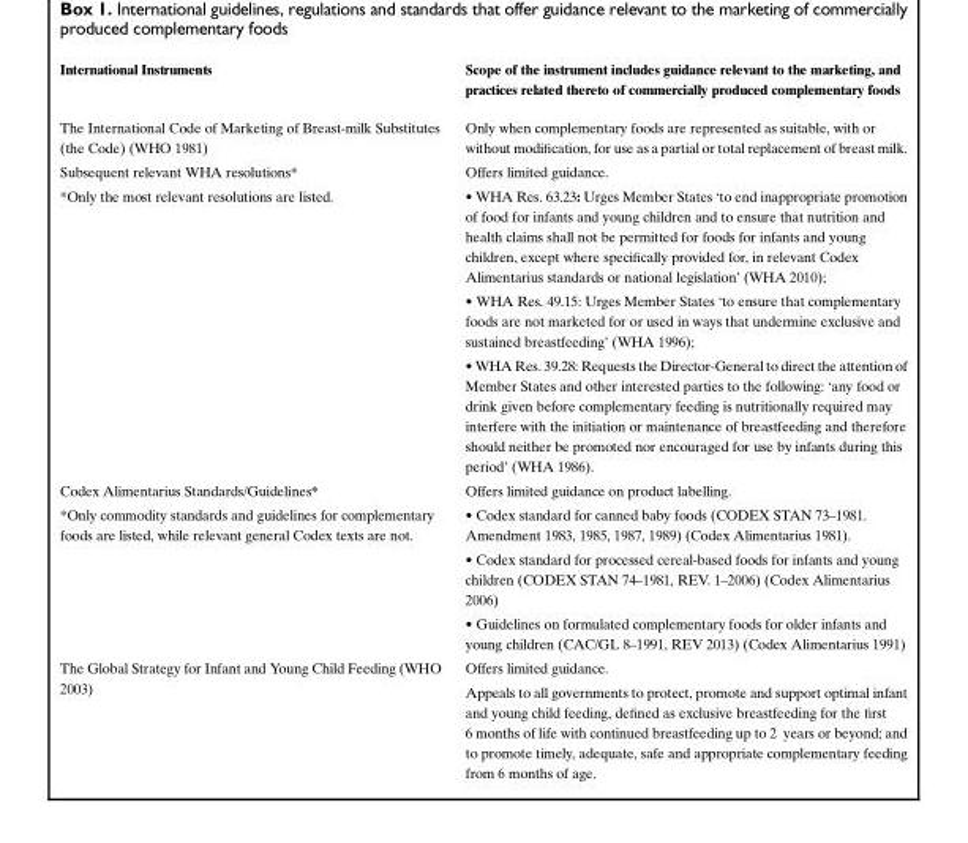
<table><tbody><tr><td>International Instruments</td><td>Scope of the instrument includes guidance relevant to the marketing, and practices related thereto of commercially produced complementary foods</td></tr><tr><td>The International Code of Marketing of Breast-milk Substitutes (the Code) (WHO 1981)</td><td>Only when complementary foods are represented as suitable, with or without modification, for use as a partial or total replacement of breast milk.</td></tr><tr><td>Subsequent relevant WHA resolutions*</td><td>Offers limited guidance.</td></tr><tr><td rowspan="3">*Only the most relevant resolutions are listed.</td><td>• WHA Res. 63.23: Urges Member States ‘to end inappropriate promotion of food for infants and young children and to ensure that nutrition and health claims shall not be permitted for foods for infants and young children, except where specifically provided for, in relevant Codex Alimentarius standards or national legislation’ (WHA 2010);</td></tr><tr><td>• WHA Res. 49.15: Urges Member States ‘to ensure that complementary foods are not marketed for or used in ways that undermine exclusive and sustained breastfeeding’ (WHA 1996);</td></tr><tr><td>• WHA Res. 39.28: Requests the Director-General to direct the attention of Member States and other interested parties to the following: ‘any food or drink given before complementary feeding is nutritionally required may interfere with the initiation or maintenance of breastfeeding and therefore should neither be promoted nor encouraged for use by infants during this period’ (WHA 1986).</td></tr><tr><td>Codex Alimentarius Standards/Guidelines*</td><td>Offers limited guidance on product labelling.</td></tr><tr><td rowspan="3">*Only commodity standards and guidelines for complementary foods are listed, while relevant general Codex texts are not.</td><td>• Codex standard for canned baby foods (CODEX STAN 73–1981. Amendment 1983, 1985, 1987, 1989) (Codex Alimentarius 1981).</td></tr><tr><td>• Codex standard for processed cereal-based foods for infants and young children (CODEX STAN 74–1981, REV. 1–2006) (Codex Alimentarius 2006)</td></tr><tr><td>• Guidelines on formulated complementary foods for older infants and young children (CAC/GL 8–1991, REV 2013) (Codex Alimentarius 1991)</td></tr><tr><td rowspan="2">The Global Strategy for Infant and Young Child Feeding (WHO 2003)</td><td>Offers limited guidance.</td></tr><tr><td>Appeals to all governments to protect, promote and support optimal infant and young child feeding, defined as exclusive breastfeeding for the first 6 months of life with continued breastfeeding up to 2 years or beyond; and to promote timely, adequate, safe and appropriate complementary feeding from 6 months of age.</td></tr></tbody></table>